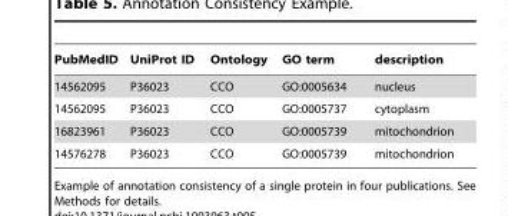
<table><thead><tr><td>PubMedID</td><td>UniProt ID</td><td>Ontology</td><td>GO term</td><td>description</td></tr></thead><tbody><tr><td>14562095</td><td>P36023</td><td>CCO</td><td>GO:0005634</td><td>nucleus</td></tr><tr><td>14562095</td><td>P36023</td><td>CCO</td><td>GO:0005737</td><td>cytoplasm</td></tr><tr><td>16823961</td><td>P36023</td><td>CCO</td><td>GO:0005739</td><td>mitochondrion</td></tr><tr><td>14576278</td><td>P36023</td><td>CCO</td><td>GO:0005739</td><td>mitochondrion</td></tr></tbody></table>